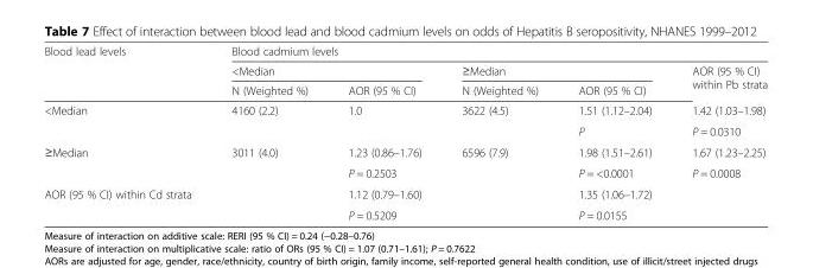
<table><thead><tr><td rowspan="3">Blood lead levels</td><td colspan="5">Blood cadmium levels</td></tr><tr><td colspan="2">&lt;Median</td><td colspan="2">≥Median</td><td rowspan="2">AOR (95 % CI) within Pb strata</td></tr><tr><td>N (Weighted %)</td><td>AOR (95 % CI)</td><td>N (Weighted %)</td><td>AOR (95 % CI)</td></tr></thead><tbody><tr><td rowspan="2">&lt;Median</td><td rowspan="2">4160 (2.2)</td><td rowspan="2">1.0</td><td rowspan="2">3622 (4.5)</td><td>1.51 (1.12–2.04)</td><td>1.42 (1.03–1.98)</td></tr><tr><td>P</td><td>P = 0.0310</td></tr><tr><td rowspan="2">≥Median</td><td rowspan="2">3011 (4.0)</td><td>1.23 (0.86–1.76)</td><td rowspan="2">6596 (7.9)</td><td>1.98 (1.51–2.61)</td><td>1.67 (1.23–2.25)</td></tr><tr><td>P = 0.2503</td><td>P = &lt;0.0001</td><td>P = 0.0008</td></tr><tr><td rowspan="2">AOR (95 % CI) within Cd strata</td><td rowspan="2"></td><td>1.12 (0.79–1.60)</td><td rowspan="2"></td><td>1.35 (1.06–1.72)</td><td rowspan="2"></td></tr><tr><td>P = 0.5209</td><td>P = 0.0155</td></tr></tbody></table>